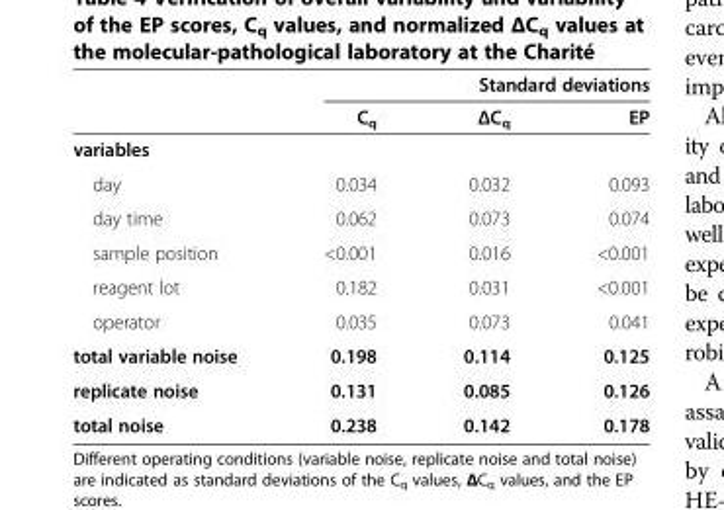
<table><thead><tr><td rowspan="2"></td><td colspan="3">Standard deviations</td></tr><tr><td>C<sub>q</sub></td><td>ΔC<sub>q</sub></td><td>EP</td></tr></thead><tbody><tr><td colspan="4">variables</td></tr><tr><td>day</td><td>0.034</td><td>0.032</td><td>0.093</td></tr><tr><td>day time</td><td>0.062</td><td>0.073</td><td>0.074</td></tr><tr><td>sample position</td><td>&lt;0.001</td><td>0.016</td><td>&lt;0.001</td></tr><tr><td>reagent lot</td><td>0.182</td><td>0.031</td><td>&lt;0.001</td></tr><tr><td>operator</td><td>0.035</td><td>0.073</td><td>0.041</td></tr><tr><td>total variable noise</td><td>0.198</td><td>0.114</td><td>0.125</td></tr><tr><td>replicate noise</td><td>0.131</td><td>0.085</td><td>0.126</td></tr><tr><td>total noise</td><td>0.238</td><td>0.142</td><td>0.178</td></tr></tbody></table>